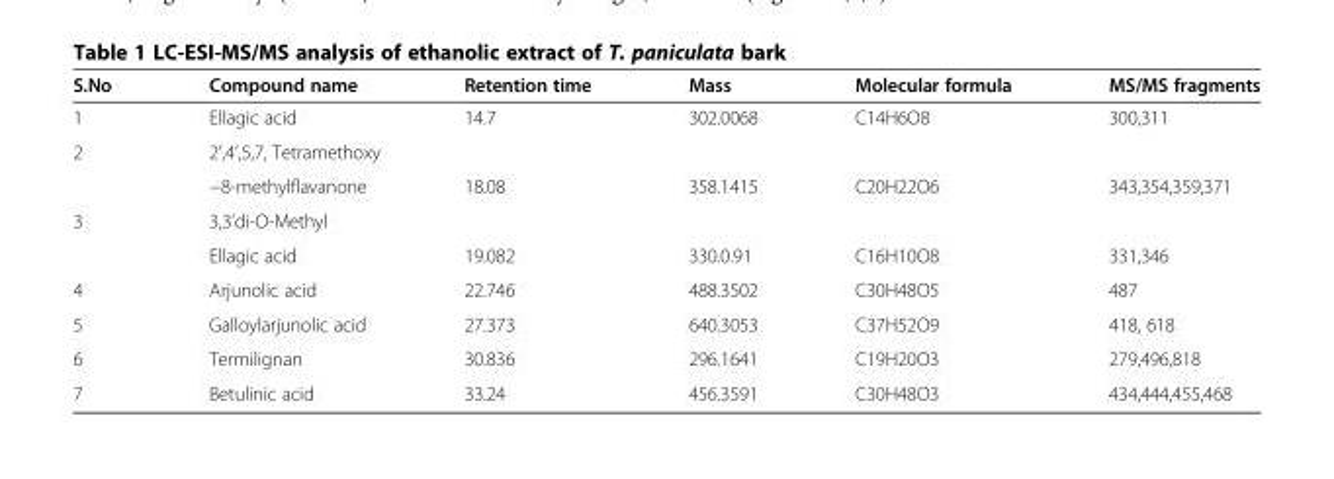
<table><thead><tr><td>S.No</td><td>Compound name</td><td>Retention time</td><td>Mass</td><td>Molecular formula</td><td>MS/MS fragments</td></tr></thead><tbody><tr><td>1</td><td>Ellagic acid</td><td>14.7</td><td>302.0068</td><td>C14H6O8</td><td>300,311</td></tr><tr><td rowspan="2">2</td><td colspan="5">2’,4’,5,7, Tetramethoxy</td></tr><tr><td>−8-methylflavanone</td><td>18.08</td><td>358.1415</td><td>C20H22O6</td><td>343,354,359,371</td></tr><tr><td rowspan="2">3</td><td colspan="4">3,3’di-O-Methyl</td><td></td></tr><tr><td>Ellagic acid</td><td>19.082</td><td>330.0.91</td><td>C16H10O8</td><td>331,346</td></tr><tr><td>4</td><td>Arjunolic acid</td><td>22.746</td><td>488.3502</td><td>C30H48O5</td><td>487</td></tr><tr><td>5</td><td>Galloylarjunolic acid</td><td>27.373</td><td>640.3053</td><td>C37H52O9</td><td>418, 618</td></tr><tr><td>6</td><td>Termilignan</td><td>30.836</td><td>296.1641</td><td>C19H20O3</td><td>279,496,818</td></tr><tr><td>7</td><td>Betulinic acid</td><td>33.24</td><td>456.3591</td><td>C30H48O3</td><td>434,444,455,468</td></tr></tbody></table>